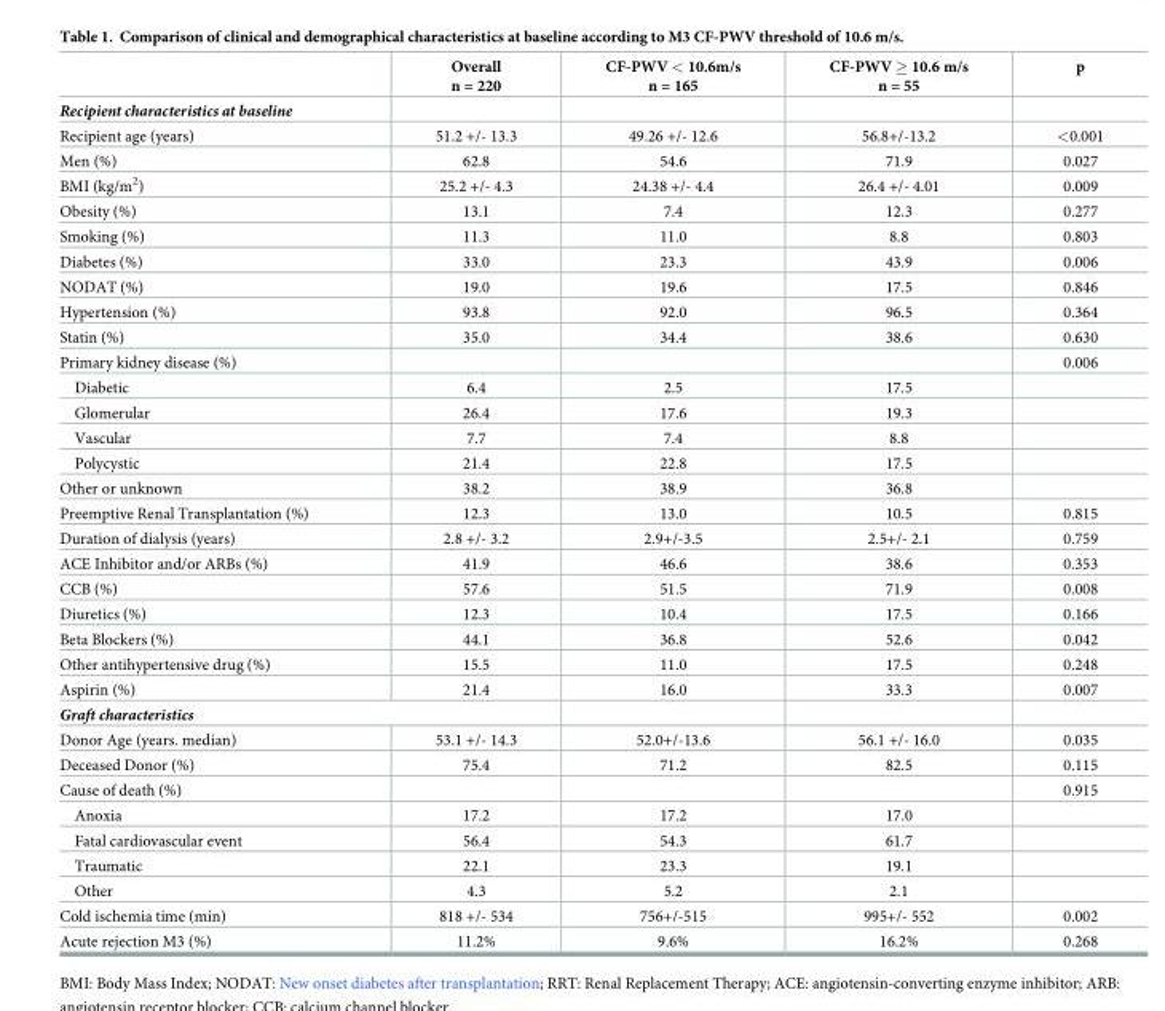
<table><thead><tr><td></td><td>Overall n = 220</td><td>CF-PWV &lt; 10.6m/s n = 165</td><td>CF-PWV ≥ 10.6 m/s n = 55</td><td>p</td></tr></thead><tbody><tr><td colspan="5">Recipient characteristics at baseline</td></tr><tr><td>Recipient age (years)</td><td>51.2 +/- 13.3</td><td>49.26 +/- 12.6</td><td>56.8+/-13.2</td><td>&lt;0.001</td></tr><tr><td>Men (%)</td><td>62.8</td><td>54.6</td><td>71.9</td><td>0.027</td></tr><tr><td>BMI (kg/m<sup>2</sup>)</td><td>25.2 +/- 4.3</td><td>24.38 +/- 4.4</td><td>26.4 +/- 4.01</td><td>0.009</td></tr><tr><td>Obesity (%)</td><td>13.1</td><td>7.4</td><td>12.3</td><td>0.277</td></tr><tr><td>Smoking (%)</td><td>11.3</td><td>11.0</td><td>8.8</td><td>0.803</td></tr><tr><td>Diabetes (%)</td><td>33.0</td><td>23.3</td><td>43.9</td><td>0.006</td></tr><tr><td>NODAT (%)</td><td>19.0</td><td>19.6</td><td>17.5</td><td>0.846</td></tr><tr><td>Hypertension (%)</td><td>93.8</td><td>92.0</td><td>96.5</td><td>0.364</td></tr><tr><td>Statin (%)</td><td>35.0</td><td>34.4</td><td>38.6</td><td>0.630</td></tr><tr><td>Primary kidney disease (%)</td><td></td><td></td><td></td><td>0.006</td></tr><tr><td>Diabetic</td><td>6.4</td><td>2.5</td><td>17.5</td><td></td></tr><tr><td>Glomerular</td><td>26.4</td><td>17.6</td><td>19.3</td><td></td></tr><tr><td>Vascular</td><td>7.7</td><td>7.4</td><td>8.8</td><td></td></tr><tr><td>Polycystic</td><td>21.4</td><td>22.8</td><td>17.5</td><td></td></tr><tr><td>Other or unknown</td><td>38.2</td><td>38.9</td><td>36.8</td><td></td></tr><tr><td>Preemptive Renal Transplantation (%)</td><td>12.3</td><td>13.0</td><td>10.5</td><td>0.815</td></tr><tr><td>Duration of dialysis (years)</td><td>2.8 +/- 3.2</td><td>2.9+/-3.5</td><td>2.5+/- 2.1</td><td>0.759</td></tr><tr><td>ACE Inhibitor and/or ARBs (%)</td><td>41.9</td><td>46.6</td><td>38.6</td><td>0.353</td></tr><tr><td>CCB (%)</td><td>57.6</td><td>51.5</td><td>71.9</td><td>0.008</td></tr><tr><td>Diuretics (%)</td><td>12.3</td><td>10.4</td><td>17.5</td><td>0.166</td></tr><tr><td>Beta Blockers (%)</td><td>44.1</td><td>36.8</td><td>52.6</td><td>0.042</td></tr><tr><td>Other antihypertensive drug (%)</td><td>15.5</td><td>11.0</td><td>17.5</td><td>0.248</td></tr><tr><td>Aspirin (%)</td><td>21.4</td><td>16.0</td><td>33.3</td><td>0.007</td></tr><tr><td colspan="5">Graft characteristics</td></tr><tr><td>Donor Age (years. median)</td><td>53.1 +/- 14.3</td><td>52.0+/-13.6</td><td>56.1 +/- 16.0</td><td>0.035</td></tr><tr><td>Deceased Donor (%)</td><td>75.4</td><td>71.2</td><td>82.5</td><td>0.115</td></tr><tr><td>Cause of death (%)</td><td></td><td></td><td></td><td>0.915</td></tr><tr><td>Anoxia</td><td>17.2</td><td>17.2</td><td>17.0</td><td></td></tr><tr><td>Fatal cardiovascular event</td><td>56.4</td><td>54.3</td><td>61.7</td><td></td></tr><tr><td>Traumatic</td><td>22.1</td><td>23.3</td><td>19.1</td><td></td></tr><tr><td>Other</td><td>4.3</td><td>5.2</td><td>2.1</td><td></td></tr><tr><td>Cold ischemia time (min)</td><td>818 +/- 534</td><td>756+/-515</td><td>995+/- 552</td><td>0.002</td></tr><tr><td>Acute rejection M3 (%)</td><td>11.2%</td><td>9.6%</td><td>16.2%</td><td>0.268</td></tr></tbody></table>